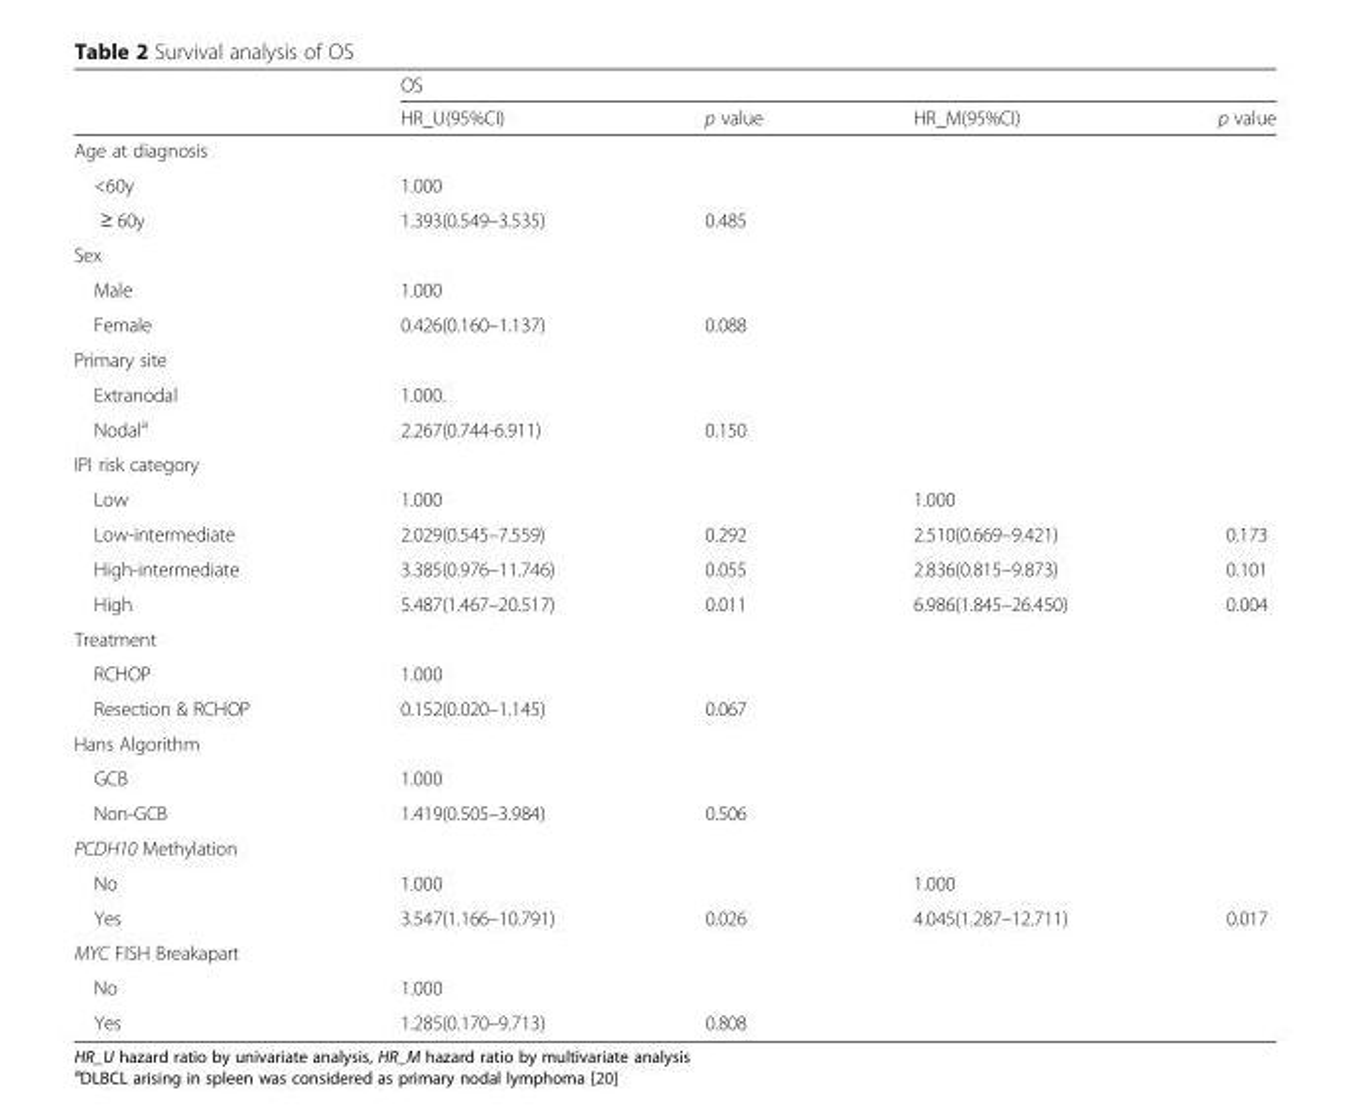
<table><thead><tr><td rowspan="2"></td><td colspan="4">OS</td></tr><tr><td>HR_U(95%CI)</td><td>p value</td><td>HR_M(95%CI)</td><td>p value</td></tr></thead><tbody><tr><td colspan="5">Age at diagnosis</td></tr><tr><td>&lt;60y</td><td>1.000</td><td></td><td></td><td></td></tr><tr><td>≥ 60y</td><td>1.393(0.549–3.535)</td><td>0.485</td><td></td><td></td></tr><tr><td colspan="5">Sex</td></tr><tr><td>Male</td><td>1.000</td><td></td><td></td><td></td></tr><tr><td>Female</td><td>0.426(0.160–1.137)</td><td>0.088</td><td></td><td></td></tr><tr><td colspan="5">Primary site</td></tr><tr><td>Extranodal</td><td>1.000.</td><td></td><td></td><td></td></tr><tr><td>Nodal<sup>a</sup></td><td>2.267(0.744-6.911)</td><td>0.150</td><td></td><td></td></tr><tr><td colspan="5">IPI risk category</td></tr><tr><td>Low</td><td>1.000</td><td></td><td>1.000</td><td></td></tr><tr><td>Low-intermediate</td><td>2.029(0.545–7.559)</td><td>0.292</td><td>2.510(0.669–9.421)</td><td>0.173</td></tr><tr><td>High-intermediate</td><td>3.385(0.976–11.746)</td><td>0.055</td><td>2.836(0.815–9.873)</td><td>0.101</td></tr><tr><td>High</td><td>5.487(1.467–20.517)</td><td>0.011</td><td>6.986(1.845–26.450)</td><td>0.004</td></tr><tr><td colspan="5">Treatment</td></tr><tr><td>RCHOP</td><td>1.000</td><td></td><td></td><td></td></tr><tr><td>Resection &amp; RCHOP</td><td>0.152(0.020–1.145)</td><td>0.067</td><td></td><td></td></tr><tr><td colspan="5">Hans Algorithm</td></tr><tr><td>GCB</td><td>1.000</td><td></td><td></td><td></td></tr><tr><td>Non-GCB</td><td>1.419(0.505–3.984)</td><td>0.506</td><td></td><td></td></tr><tr><td colspan="5">PCDH10 Methylation</td></tr><tr><td>No</td><td>1.000</td><td></td><td>1.000</td><td></td></tr><tr><td>Yes</td><td>3.547(1.166–10.791)</td><td>0.026</td><td>4.045(1.287–12.711)</td><td>0.017</td></tr><tr><td colspan="5">MYC FISH Breakapart</td></tr><tr><td>No</td><td>1.000</td><td></td><td></td><td></td></tr><tr><td>Yes</td><td>1.285(0.170–9.713)</td><td>0.808</td><td></td><td></td></tr></tbody></table>